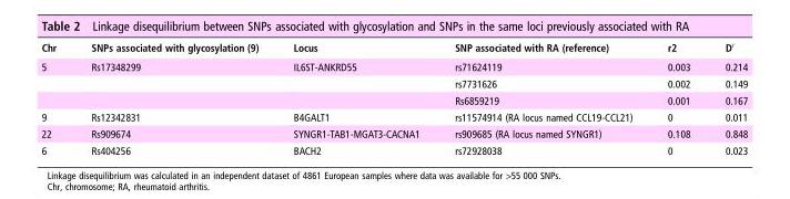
<table><thead><tr><td>Chr</td><td>SNPs associated with glycosylation (9)</td><td>Locus</td><td>SNP associated with RA (reference)</td><td>r2</td><td>D′</td></tr></thead><tbody><tr><td rowspan="3">5</td><td>Rs17348299</td><td>IL6ST-ANKRD55</td><td>rs71624119</td><td>0.003</td><td>0.214</td></tr><tr><td></td><td></td><td>rs7731626</td><td>0.002</td><td>0.149</td></tr><tr><td></td><td></td><td>Rs6859219</td><td>0.001</td><td>0.167</td></tr><tr><td>9</td><td>Rs12342831</td><td>B4GALT1</td><td>rs11574914 (RA locus named CCL19-CCL21)</td><td>0</td><td>0.011</td></tr><tr><td>22</td><td>Rs909674</td><td>SYNGR1-TAB1-MGAT3-CACNA1</td><td>rs909685 (RA locus named SYNGR1)</td><td>0.108</td><td>0.848</td></tr><tr><td>6</td><td>Rs404256</td><td>BACH2</td><td>rs72928038</td><td>0</td><td>0.023</td></tr></tbody></table>